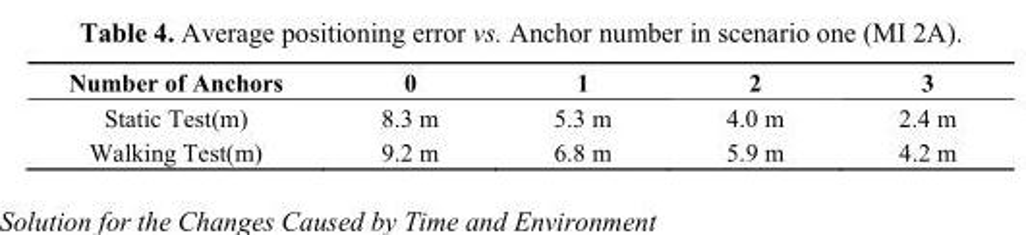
<table><thead><tr><td>Number of Anchors</td><td>0</td><td>1</td><td>2</td><td>3</td></tr></thead><tbody><tr><td>Static Test(m)</td><td>8.3 m</td><td>5.3 m</td><td>4.0 m</td><td>2.4 m</td></tr><tr><td>Walking Test(m)</td><td>9.2 m</td><td>6.8 m</td><td>5.9 m</td><td>4.2 m</td></tr></tbody></table>